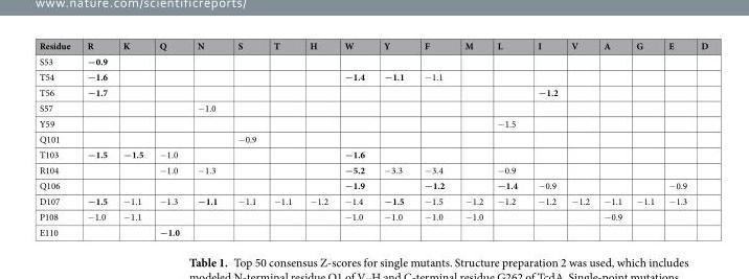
<table><thead><tr><td>Residue</td><td>R</td><td>K</td><td>Q</td><td>N</td><td>S</td><td>T</td><td>H</td><td>W</td><td>Y</td><td>F</td><td>M</td><td>L</td><td>I</td><td>V</td><td>A</td><td>G</td><td>E</td><td>D</td></tr></thead><tbody><tr><td>S53</td><td>−0.9</td><td></td><td></td><td></td><td></td><td></td><td></td><td></td><td></td><td></td><td></td><td></td><td></td><td></td><td></td><td></td><td></td><td></td></tr><tr><td>T54</td><td>−1.6</td><td></td><td></td><td></td><td></td><td></td><td></td><td>−1.4</td><td>−1.1</td><td>−1.1</td><td></td><td></td><td></td><td></td><td></td><td></td><td></td><td></td></tr><tr><td>T56</td><td>−1.7</td><td></td><td></td><td></td><td></td><td></td><td></td><td></td><td></td><td></td><td></td><td></td><td>−1.2</td><td></td><td></td><td></td><td></td><td></td></tr><tr><td>S57</td><td></td><td></td><td></td><td>−1.0</td><td></td><td></td><td></td><td></td><td></td><td></td><td></td><td></td><td></td><td></td><td></td><td></td><td></td><td></td></tr><tr><td>Y59</td><td></td><td></td><td></td><td></td><td></td><td></td><td></td><td></td><td></td><td></td><td></td><td>−1.5</td><td></td><td></td><td></td><td></td><td></td><td></td></tr><tr><td>Q101</td><td></td><td></td><td></td><td></td><td>−0.9</td><td></td><td></td><td></td><td></td><td></td><td></td><td></td><td></td><td></td><td></td><td></td><td></td><td></td></tr><tr><td>T103</td><td>−1.5</td><td>−1.5</td><td>−1.0</td><td></td><td></td><td></td><td></td><td>−1.6</td><td></td><td></td><td></td><td></td><td></td><td></td><td></td><td></td><td></td><td></td></tr><tr><td>R104</td><td></td><td></td><td>−1.0</td><td>−1.3</td><td></td><td></td><td></td><td>−5.2</td><td>−3.3</td><td>−3.4</td><td></td><td>−0.9</td><td></td><td></td><td></td><td></td><td></td><td></td></tr><tr><td>Q106</td><td></td><td></td><td></td><td></td><td></td><td></td><td></td><td>−1.9</td><td></td><td>−1.2</td><td></td><td>−1.4</td><td>−0.9</td><td></td><td></td><td></td><td>−0.9</td><td></td></tr><tr><td>D107</td><td>−1.5</td><td>−1.1</td><td>−1.3</td><td>−1.1</td><td>−1.1</td><td>−1.1</td><td>−1.2</td><td>−1.4</td><td>−1.5</td><td>−1.5</td><td>−1.2</td><td>−1.2</td><td>−1.2</td><td>−1.2</td><td>−1.1</td><td>−1.1</td><td>−1.3</td><td></td></tr><tr><td>P108</td><td>−1.0</td><td>−1.1</td><td></td><td></td><td></td><td></td><td></td><td>−1.0</td><td>−1.0</td><td>−1.0</td><td>−1.0</td><td></td><td></td><td></td><td>−0.9</td><td></td><td></td><td></td></tr><tr><td>E110</td><td></td><td></td><td>−1.0</td><td></td><td></td><td></td><td></td><td></td><td></td><td></td><td></td><td></td><td></td><td></td><td></td><td></td><td></td><td></td></tr></tbody></table>